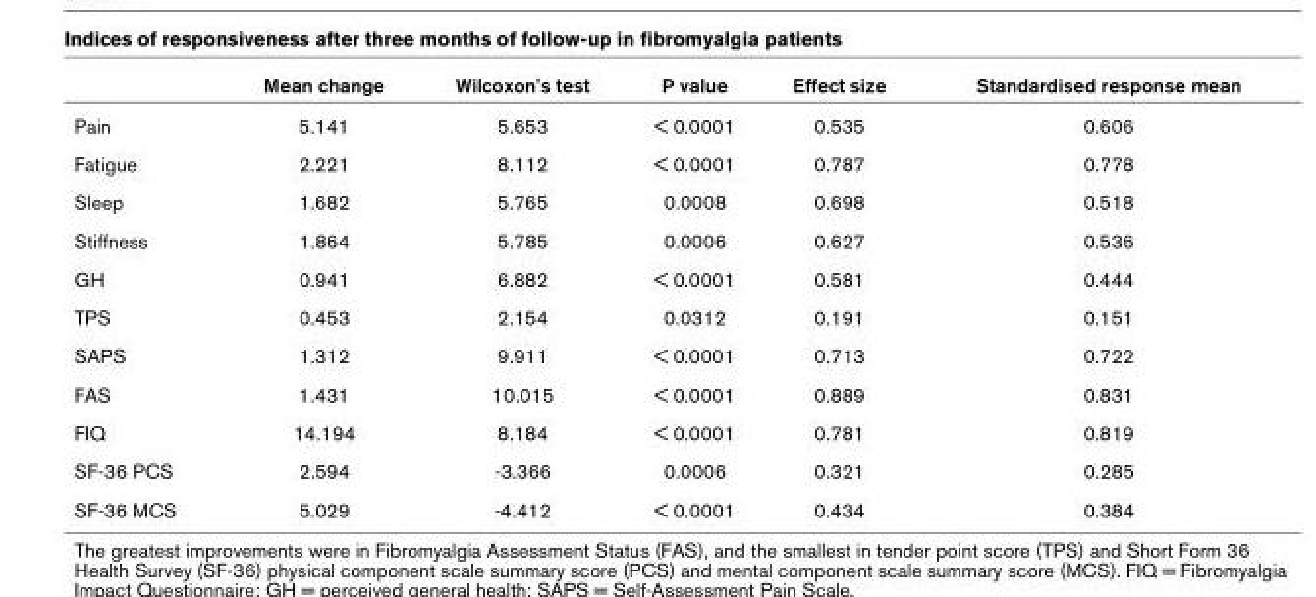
<table><thead><tr><td></td><td>Mean change</td><td>Wilcoxon&#x27;s test</td><td>P value</td><td>Effect size</td><td>Standardised response mean</td></tr></thead><tbody><tr><td>Pain</td><td>5.141</td><td>5.653</td><td>&lt; 0.0001</td><td>0.535</td><td>0.606</td></tr><tr><td>Fatigue</td><td>2.221</td><td>8.112</td><td>&lt; 0.0001</td><td>0.787</td><td>0.778</td></tr><tr><td>Sleep</td><td>1.682</td><td>5.765</td><td>0.0008</td><td>0.698</td><td>0.518</td></tr><tr><td>Stiffness</td><td>1.864</td><td>5.785</td><td>0.0006</td><td>0.627</td><td>0.536</td></tr><tr><td>GH</td><td>0.941</td><td>6.882</td><td>&lt; 0.0001</td><td>0.581</td><td>0.444</td></tr><tr><td>TPS</td><td>0.453</td><td>2.154</td><td>0.0312</td><td>0.191</td><td>0.151</td></tr><tr><td>SAPS</td><td>1.312</td><td>9.911</td><td>&lt; 0.0001</td><td>0.713</td><td>0.722</td></tr><tr><td>FAS</td><td>1.431</td><td>10.015</td><td>&lt; 0.0001</td><td>0.889</td><td>0.831</td></tr><tr><td>FIQ</td><td>14.194</td><td>8.184</td><td>&lt; 0.0001</td><td>0.781</td><td>0.819</td></tr><tr><td>SF-36 PCS</td><td>2.594</td><td>-3.366</td><td>0.0006</td><td>0.321</td><td>0.285</td></tr><tr><td>SF-36 MCS</td><td>5.029</td><td>-4.412</td><td>&lt; 0.0001</td><td>0.434</td><td>0.384</td></tr></tbody></table>